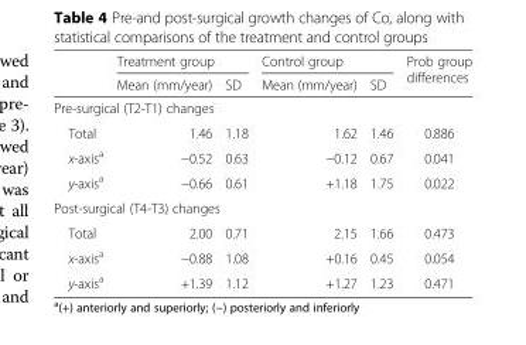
<table><thead><tr><td rowspan="2"></td><td colspan="2">Treatment group</td><td colspan="2">Control group</td><td rowspan="2">Prob group differences</td></tr><tr><td>Mean (mm/year)</td><td>SD</td><td>Mean (mm/year)</td><td>SD</td></tr></thead><tbody><tr><td colspan="6">Pre-surgical (T2-T1) changes</td></tr><tr><td>Total</td><td>1.46</td><td>1.18</td><td>1.62</td><td>1.46</td><td>0.886</td></tr><tr><td>x-axis<sup>a</sup></td><td>−0.52</td><td>0.63</td><td>−0.12</td><td>0.67</td><td>0.041</td></tr><tr><td>y-axis<sup>a</sup></td><td>−0.66</td><td>0.61</td><td>+1.18</td><td>1.75</td><td>0.022</td></tr><tr><td colspan="6">Post-surgical (T4-T3) changes</td></tr><tr><td>Total</td><td>2.00</td><td>0.71</td><td>2.15</td><td>1.66</td><td>0.473</td></tr><tr><td>x-axis<sup>a</sup></td><td>−0.88</td><td>1.08</td><td>+0.16</td><td>0.45</td><td>0.054</td></tr><tr><td>y-axis<sup>a</sup></td><td>+1.39</td><td>1.12</td><td>+1.27</td><td>1.23</td><td>0.471</td></tr></tbody></table>